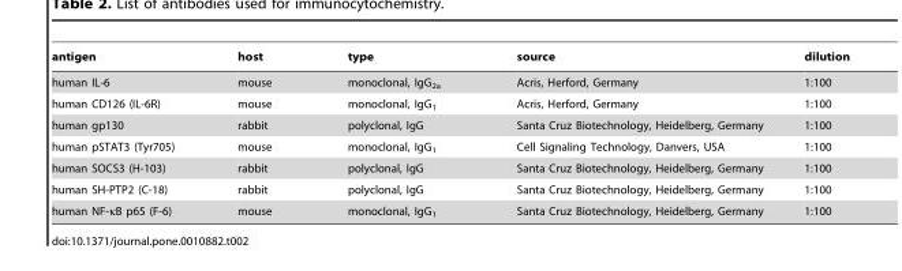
<table><thead><tr><td>antigen</td><td>host</td><td>type</td><td>source</td><td>dilution</td></tr></thead><tbody><tr><td>human IL-6</td><td>mouse</td><td>monoclonal, IgG<sub>2a</sub></td><td>Acris, Herford, Germany</td><td>1:100</td></tr><tr><td>human CD126 (IL-6R)</td><td>mouse</td><td>monoclonal, IgG<sub>1</sub></td><td>Acris, Herford, Germany</td><td>1:100</td></tr><tr><td>human gp130</td><td>rabbit</td><td>polyclonal, IgG</td><td>Santa Cruz Biotechnology, Heidelberg, Germany</td><td>1:100</td></tr><tr><td>human pSTAT3 (Tyr705)</td><td>mouse</td><td>monoclonal, IgG<sub>1</sub></td><td>Cell Signaling Technology, Danvers, USA</td><td>1:100</td></tr><tr><td>human SOCS3 (H-103)</td><td>rabbit</td><td>polyclonal, IgG</td><td>Santa Cruz Biotechnology, Heidelberg, Germany</td><td>1:100</td></tr><tr><td>human SH-PTP2 (C-18)</td><td>rabbit</td><td>polyclonal, IgG</td><td>Santa Cruz Biotechnology, Heidelberg, Germany</td><td>1:100</td></tr><tr><td>human NF-κB p65 (F-6)</td><td>mouse</td><td>monoclonal, IgG<sub>1</sub></td><td>Santa Cruz Biotechnology, Heidelberg, Germany</td><td>1:100</td></tr></tbody></table>